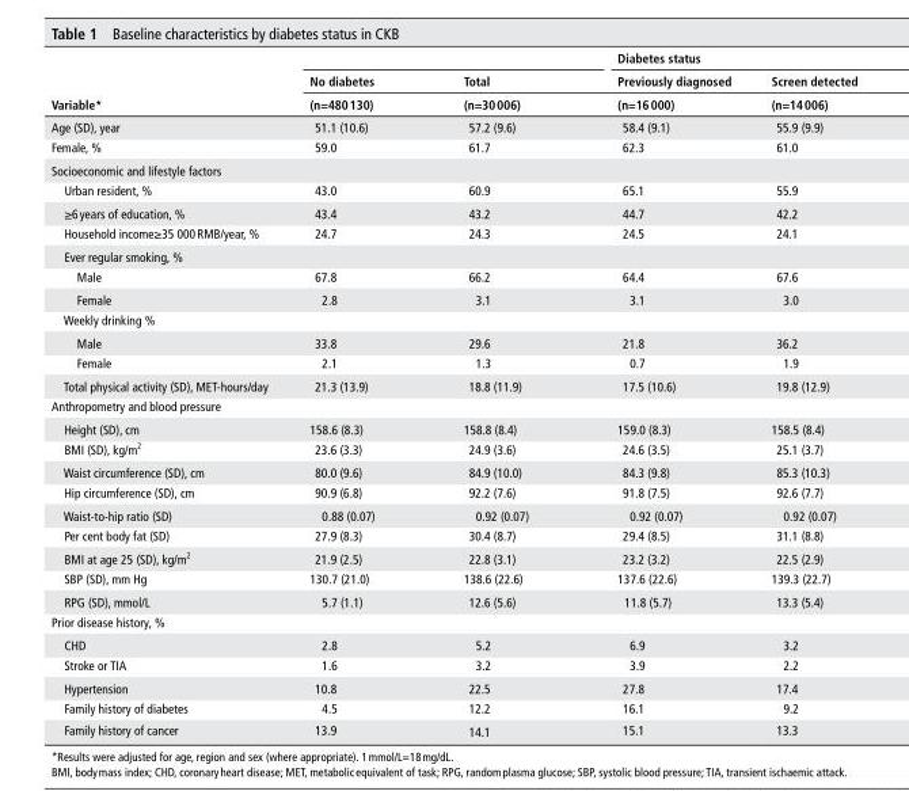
<table><thead><tr><td rowspan="3">Variable*</td><td rowspan="3">no diabetes (n=480 130)</td><td rowspan="3">Total (n=30 006)</td><td colspan="2">Diabetes status</td></tr><tr><td rowspan="2">Previously diagnosed (n=16 000)</td><td rowspan="2">screen detected (n=14 006)</td></tr><tr></tr></thead><tbody><tr><td>Age (SD), year</td><td>51.1 (10.6)</td><td>57.2 (9.6)</td><td>58.4 (9.1)</td><td>55.9 (9.9)</td></tr><tr><td>Female, %</td><td>59.0</td><td>61.7</td><td>62.3</td><td>61.0</td></tr><tr><td colspan="5">Socioeconomic and lifestyle factors</td></tr><tr><td>Urban resident, %</td><td>43.0</td><td>60.9</td><td>65.1</td><td>55.9</td></tr><tr><td>≥6 years of education, %</td><td>43.4</td><td>43.2</td><td>44.7</td><td>42.2</td></tr><tr><td>Household income≥35 000 RMB/year, %</td><td>24.7</td><td>24.3</td><td>24.5</td><td>24.1</td></tr><tr><td colspan="5">Ever regular smoking, %</td></tr><tr><td>Male</td><td>67.8</td><td>66.2</td><td>64.4</td><td>67.6</td></tr><tr><td>Female</td><td>2.8</td><td>3.1</td><td>3.1</td><td>3.0</td></tr><tr><td colspan="5">Weekly drinking %</td></tr><tr><td>Male</td><td>33.8</td><td>29.6</td><td>21.8</td><td>36.2</td></tr><tr><td>Female</td><td>2.1</td><td>1.3</td><td>0.7</td><td>1.9</td></tr><tr><td>Total physical activity (SD), MET-hours/day</td><td>21.3 (13.9)</td><td>18.8 (11.9)</td><td>17.5 (10.6)</td><td>19.8 (12.9)</td></tr><tr><td colspan="5">Anthropometry and blood pressure</td></tr><tr><td>Height (SD), cm</td><td>158.6 (8.3)</td><td>158.8 (8.4)</td><td>159.0 (8.3)</td><td>158.5 (8.4)</td></tr><tr><td>BMI (SD), kg/m<sup>2</sup></td><td>23.6 (3.3)</td><td>24.9 (3.6)</td><td>24.6 (3.5)</td><td>25.1 (3.7)</td></tr><tr><td>Waist circumference (SD), cm</td><td>80.0 (9.6)</td><td>84.9 (10.0)</td><td>84.3 (9.8)</td><td>85.3 (10.3)</td></tr><tr><td>Hip circumference (SD), cm</td><td>90.9 (6.8)</td><td>92.2 (7.6)</td><td>91.8 (7.5)</td><td>92.6 (7.7)</td></tr><tr><td>Waist-to-hip ratio (SD)</td><td>0.88 (0.07)</td><td>0.92 (0.07)</td><td>0.92 (0.07)</td><td>0.92 (0.07)</td></tr><tr><td>Per cent body fat (SD)</td><td>27.9 (8.3)</td><td>30.4 (8.7)</td><td>29.4 (8.5)</td><td>31.1 (8.8)</td></tr><tr><td>BMI at age 25 (SD), kg/m<sup>2</sup></td><td>21.9 (2.5)</td><td>22.8 (3.1)</td><td>23.2 (3.2)</td><td>22.5 (2.9)</td></tr><tr><td>SBP (SD), mm Hg</td><td>130.7 (21.0)</td><td>138.6 (22.6)</td><td>137.6 (22.6)</td><td>139.3 (22.7)</td></tr><tr><td>RPG (SD), mmol/L</td><td>5.7 (1.1)</td><td>12.6 (5.6)</td><td>11.8 (5.7)</td><td>13.3 (5.4)</td></tr><tr><td colspan="5">Prior disease history, %</td></tr><tr><td>CHD</td><td>2.8</td><td>5.2</td><td>6.9</td><td>3.2</td></tr><tr><td>Stroke or TIA</td><td>1.6</td><td>3.2</td><td>3.9</td><td>2.2</td></tr><tr><td>Hypertension</td><td>10.8</td><td>22.5</td><td>27.8</td><td>17.4</td></tr><tr><td>Family history of diabetes</td><td>4.5</td><td>12.2</td><td>16.1</td><td>9.2</td></tr><tr><td>Family history of cancer</td><td>13.9</td><td>14.1</td><td>15.1</td><td>13.3</td></tr></tbody></table>